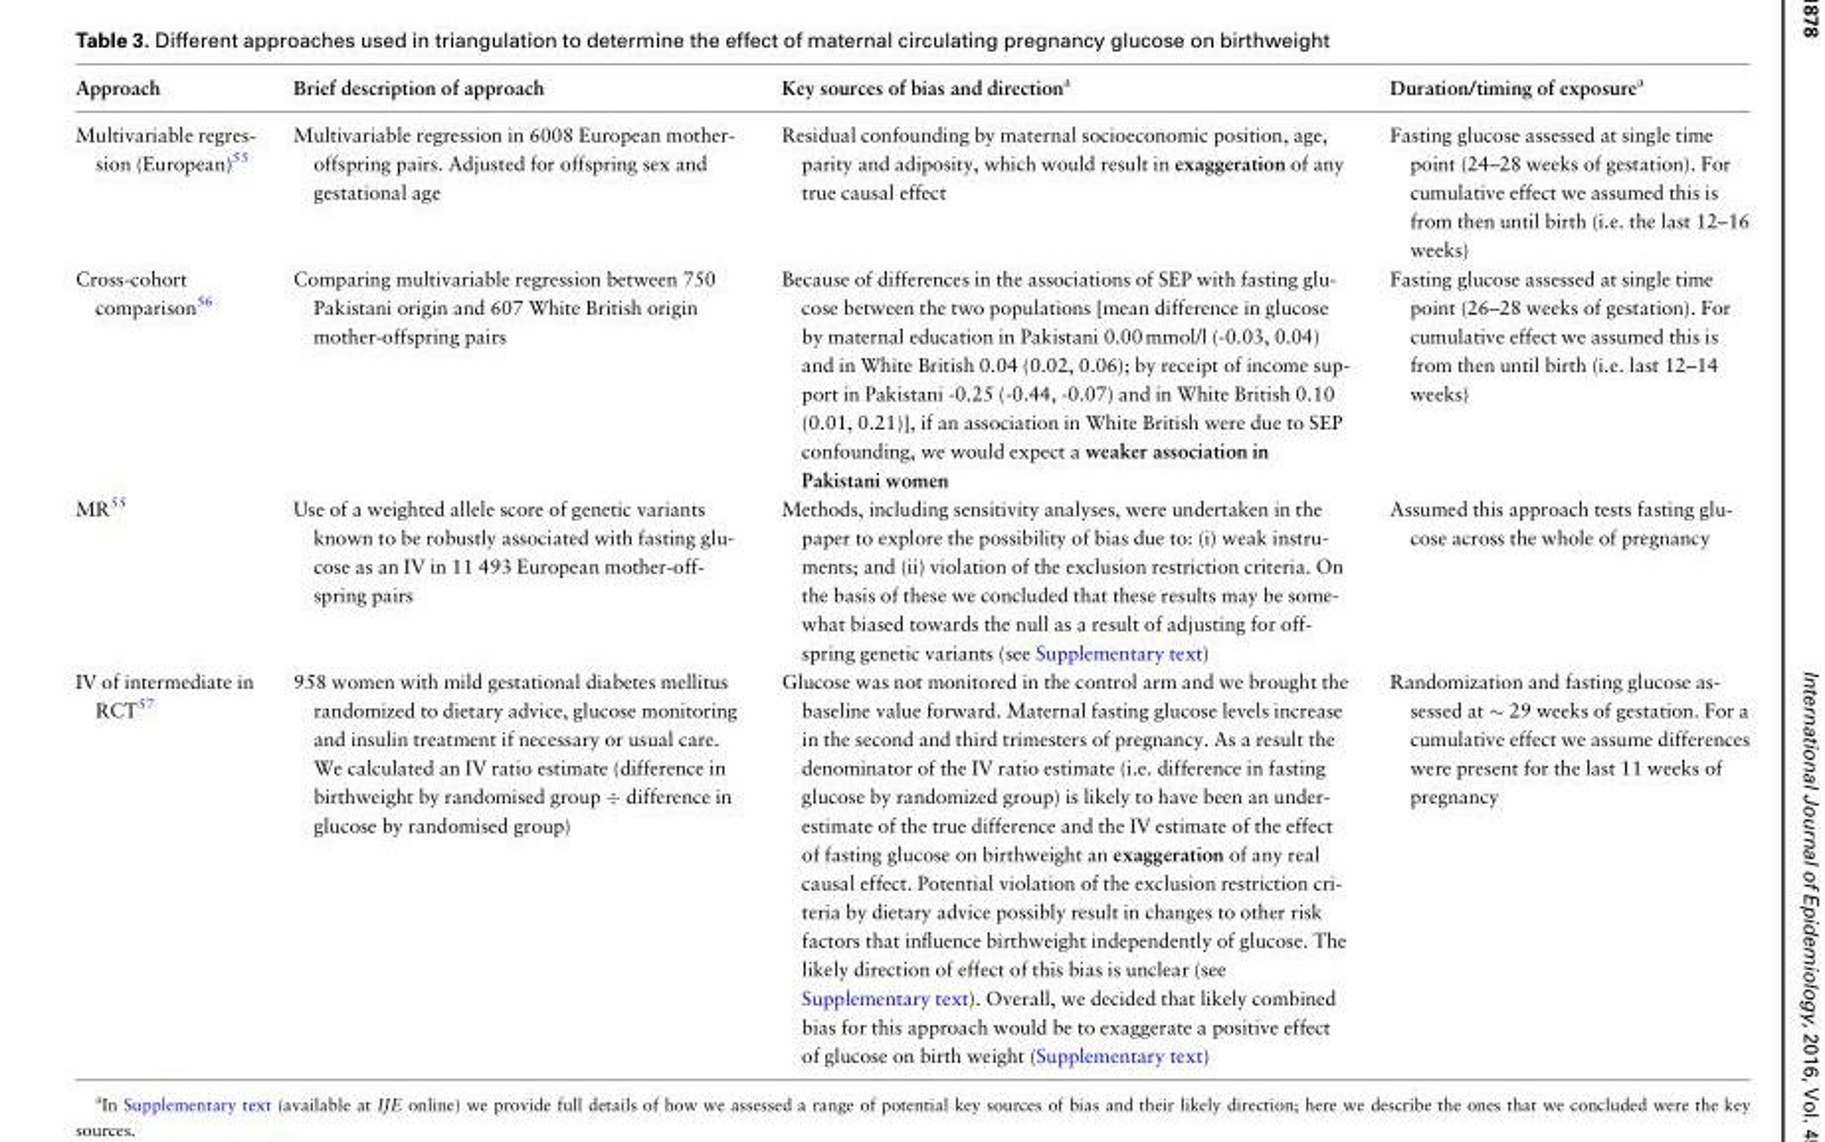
<table><thead><tr><td>Approach</td><td>Brief description of approach</td><td>Key sources of bias and direction<sup>a</sup></td><td>Duration/timing of exposure<sup>a</sup></td></tr></thead><tbody><tr><td>Multivariable regres- sion (European)55</td><td>Multivariable regression in 6008 European mother- offspring pairs. Adjusted for offspring sex and gestational age</td><td>Residual confounding by maternal socioeconomic position, age, parity and adiposity, which would result in exaggeration of any true causal effect</td><td>Fasting glucose assessed at single time point (24–28 weeks of gestation). For cumulative effect we assumed this is from then until birth (i.e. the last 12–16 weeks)</td></tr><tr><td>Cross-cohort comparison<sup>56</sup></td><td>Comparing multivariable regression between 750 Pakistani origin and 607 White British origin mother-offspring pairs</td><td>Because of differences in the associations of SEP with fasting glu- cose between the two populations [mean difference in glucose by maternal education in Pakistani 0.00 mmol/l (-0.03, 0.04) and in White British 0.04 (0.02, 0.06); by receipt of income sup- port in Pakistani -0.25 (-0.44, -0.07) and in White British 0.10 (0.01, 0.21)], if an association in White British were due to SEP confounding, we would expect a weaker association in Pakistani women</td><td>Fasting glucose assessed at single time point (26–28 weeks of gestation). For cumulative effect we assumed this is from then until birth (i.e. last 12–14 weeks)</td></tr><tr><td>MR<sup>55</sup></td><td>Use of a weighted allele score of genetic variants known to be robustly associated with fasting glu- cose as an IV in 11 493 European mother-off- spring pairs</td><td>Methods, including sensitivity analyses, were undertaken in the paper to explore the possibility of bias due to: (i) weak instru- ments; and (ii) violation of the exclusion restriction criteria. On the basis of these we concluded that these results may be some- what biased towards the null as a result of adjusting for off- spring genetic variants (see Supplementary text)</td><td>Assumed this approach tests fasting glu- cose across the whole of pregnancy</td></tr><tr><td>IV of intermediate in RCT<sup>57</sup></td><td>958 women with mild gestational diabetes mellitus randomized to dietary advice, glucose monitoring and insulin treatment if necessary or usual care. We calculated an IV ratio estimate (difference in birthweight by randomised group ÷ difference in glucose by randomised group)</td><td>Glucose was not monitored in the control arm and we brought the baseline value forward. Maternal fasting glucose levels increase in the second and third trimesters of pregnancy. As a result the denominator of the IV ratio estimate (i.e. difference in fasting glucose by randomized group) is likely to have been an under- estimate of the true difference and the IV estimate of the effect of fasting glucose on birthweight an exaggeration of any real causal effect. Potential violation of the exclusion restriction cri- teria by dietary advice possibly result in changes to other risk factors that influence birthweight independently of glucose. The likely direction of effect of this bias is unclear (see Supplementary text). Overall, we decided that likely combined bias for this approach would be to exaggerate a positive effect of glucose on birth weight (Supplementary text)</td><td>Randomization and fasting glucose as- sessed at � 29 weeks of gestation. For a cumulative effect we assume differences were present for the last 11 weeks of pregnancy</td></tr></tbody></table>